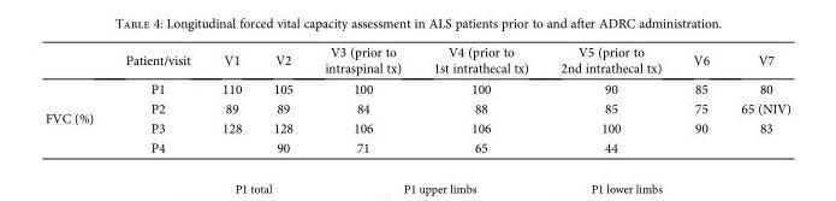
<table><thead><tr><td></td><td>Patient/visit</td><td>V1</td><td>V2</td><td>V3 (prior to intraspinal tx)</td><td>V4 (prior to 1st intrathecal tx)</td><td>V5 (prior to 2nd intrathecal tx)</td><td>V6</td><td>V7</td></tr></thead><tbody><tr><td rowspan="4">FVC (%)</td><td>P1</td><td>110</td><td>105</td><td>100</td><td>100</td><td>90</td><td>85</td><td>80</td></tr><tr><td>P2</td><td>89</td><td>89</td><td>84</td><td>88</td><td>85</td><td>75</td><td>65 (NIV)</td></tr><tr><td>P3</td><td>128</td><td>128</td><td>106</td><td>106</td><td>100</td><td>90</td><td>83</td></tr><tr><td>P4</td><td></td><td>90</td><td>71</td><td>65</td><td>44</td><td></td><td></td></tr></tbody></table>